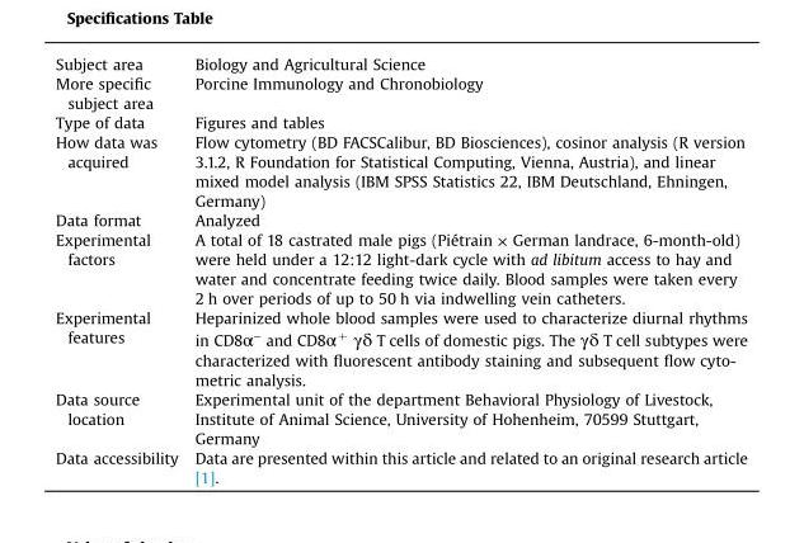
<table><tbody><tr><td>Subject area</td><td>Biology and Agricultural Science</td></tr><tr><td>More specific subject area</td><td>Porcine Immunology and Chronobiology</td></tr><tr><td>Type of data</td><td>Figures and tables</td></tr><tr><td>How data was acquired</td><td>Flow cytometry (BD FACSCalibur, BD Biosciences), cosinor analysis (R version 3.1.2, R Foundation for Statistical Computing, Vienna, Austria), and linear mixed model analysis (IBM SPSS Statistics 22, IBM Deutschland, Ehningen, Germany)</td></tr><tr><td>Data format</td><td>Analyzed</td></tr><tr><td>Experimental factors</td><td>A total of 18 castrated male pigs (Piétrain × German landrace, 6-month-old) were held under a 12:12 light-dark cycle with ad libitum access to hay and water and concentrate feeding twice daily. Blood samples were taken every 2 h over periods of up to 50 h via indwelling vein catheters.</td></tr><tr><td>Experimental features</td><td>Heparinized whole blood samples were used to characterize diurnal rhythms in CD8α− and CD8αþ γδ T cells of domestic pigs. The γδ T cell subtypes were characterized with fluorescent antibody staining and subsequent flow cyto- metric analysis.</td></tr><tr><td>Data source location</td><td>Experimental unit of the department Behavioral Physiology of Livestock, Institute of Animal Science, University of Hohenheim, 70599 Stuttgart, Germany</td></tr><tr><td>Data accessibility</td><td>Data are presented within this article and related to an original research article [1].</td></tr></tbody></table>